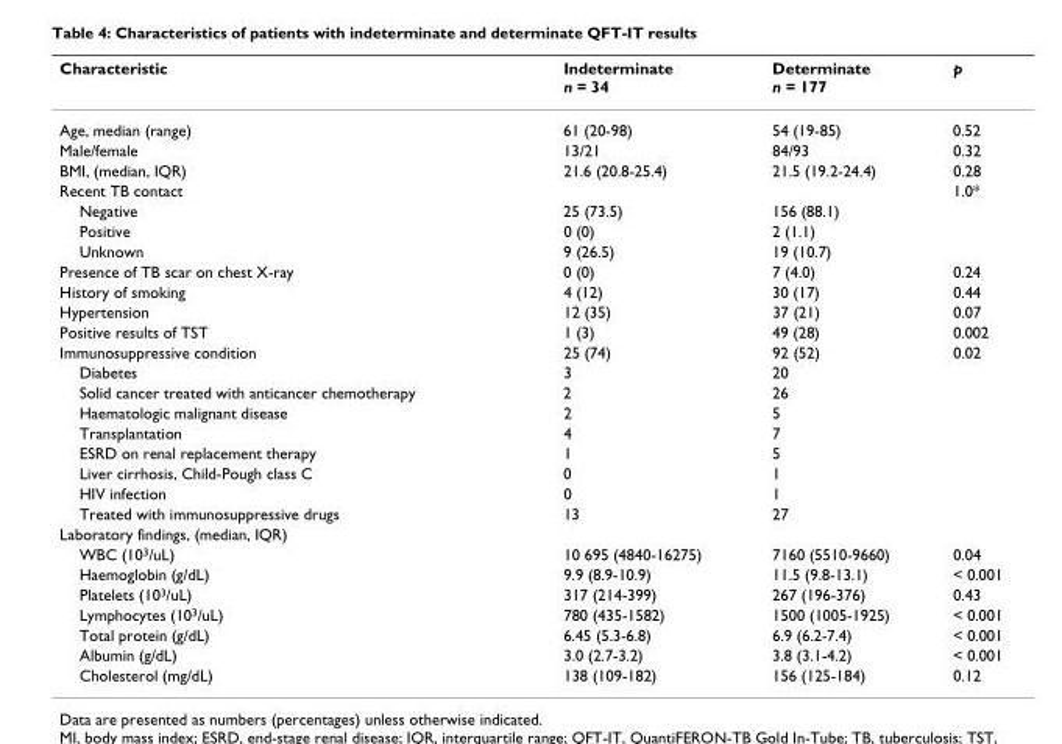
<table><thead><tr><td>Characteristic</td><td>Indeterminate n = 34</td><td>Determinate n = 177</td><td>p</td></tr></thead><tbody><tr><td>Age, median (range)</td><td>61 (20-98)</td><td>54 (19-85)</td><td>0.52</td></tr><tr><td>Male/female</td><td>13/21</td><td>84/93</td><td>0.32</td></tr><tr><td>BMI, (median, IQR)</td><td>21.6 (20.8-25.4)</td><td>21.5 (19.2-24.4)</td><td>0.28</td></tr><tr><td>Recent TB contact</td><td></td><td></td><td>1.0*</td></tr><tr><td>Negative</td><td>25 (73.5)</td><td>156 (88.1)</td><td></td></tr><tr><td>Positive</td><td>0 (0)</td><td>2 (1.1)</td><td></td></tr><tr><td>Unknown</td><td>9 (26.5)</td><td>19 (10.7)</td><td></td></tr><tr><td>Presence of TB scar on chest X-ray</td><td>0 (0)</td><td>7 (4.0)</td><td>0.24</td></tr><tr><td>History of smoking</td><td>4 (12)</td><td>30 (17)</td><td>0.44</td></tr><tr><td>Hypertension</td><td>12 (35)</td><td>37 (21)</td><td>0.07</td></tr><tr><td>Positive results of TST</td><td>1 (3)</td><td>49 (28)</td><td>0.002</td></tr><tr><td>Immunosuppressive condition</td><td>25 (74)</td><td>92 (52)</td><td>0.02</td></tr><tr><td>Diabetes</td><td>3</td><td>20</td><td></td></tr><tr><td>Solid cancer treated with anticancer chemotherapy</td><td>2</td><td>26</td><td></td></tr><tr><td>Haematologic malignant disease</td><td>2</td><td>5</td><td></td></tr><tr><td>Transplantation</td><td>4</td><td>7</td><td></td></tr><tr><td>ESRD on renal replacement therapy</td><td>1</td><td>5</td><td></td></tr><tr><td>Liver cirrhosis, Child-Pough class C</td><td>0</td><td>1</td><td></td></tr><tr><td>HIV infection</td><td>0</td><td>1</td><td></td></tr><tr><td>Treated with immunosuppressive drugs</td><td>13</td><td>27</td><td></td></tr><tr><td colspan="4">Laboratory findings, (median, IQR)</td></tr><tr><td>WBC (10<sup>3</sup>/uL)</td><td>10 695 (4840-16275)</td><td>7160 (5510-9660)</td><td>0.04</td></tr><tr><td>Haemoglobin (g/dL)</td><td>9.9 (8.9-10.9)</td><td>11.5 (9.8-13.1)</td><td>&lt; 0.001</td></tr><tr><td>Platelets (10<sup>3</sup>/uL)</td><td>317 (214-399)</td><td>267 (196-376)</td><td>0.43</td></tr><tr><td>Lymphocytes (10<sup>3</sup>/uL)</td><td>780 (435-1582)</td><td>1500 (1005-1925)</td><td>&lt; 0.001</td></tr><tr><td>Total protein (g/dL)</td><td>6.45 (5.3-6.8)</td><td>6.9 (6.2-7.4)</td><td>&lt; 0.001</td></tr><tr><td>Albumin (g/dL)</td><td>3.0 (2.7-3.2)</td><td>3.8 (3.1-4.2)</td><td>&lt; 0.001</td></tr><tr><td>Cholesterol (mg/dL)</td><td>138 (109-182)</td><td>156 (125-184)</td><td>0.12</td></tr></tbody></table>